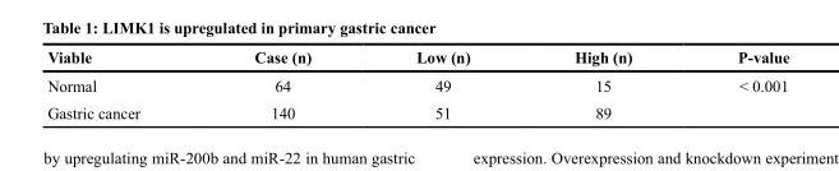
<table><thead><tr><td>Viable</td><td>Case (n)</td><td>Low (n)</td><td>High (n)</td><td>P-value</td></tr></thead><tbody><tr><td>Normal</td><td>64</td><td>49</td><td>15</td><td>&lt; 0.001</td></tr><tr><td>Gastric cancer</td><td>140</td><td>51</td><td>89</td><td></td></tr></tbody></table>